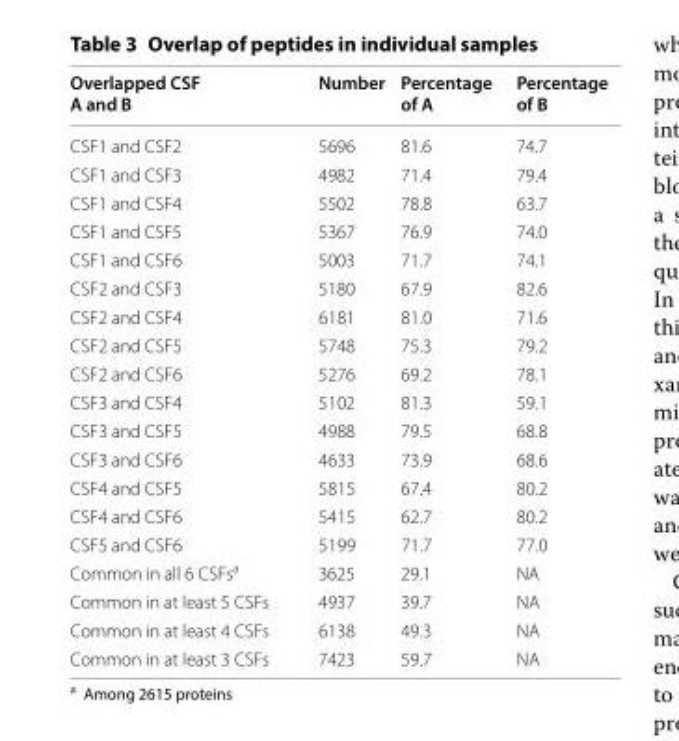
<table><thead><tr><td>Overlapped CSF A and B</td><td>Number</td><td>Percentage of A</td><td>Percentage of B</td></tr></thead><tbody><tr><td>CSF1 and CSF2</td><td>5696</td><td>81.6</td><td>74.7</td></tr><tr><td>CSF1 and CSF3</td><td>4982</td><td>71.4</td><td>79.4</td></tr><tr><td>CSF1 and CSF4</td><td>5502</td><td>78.8</td><td>63.7</td></tr><tr><td>CSF1 and CSF5</td><td>5367</td><td>76.9</td><td>74.0</td></tr><tr><td>CSF1 and CSF6</td><td>5003</td><td>71.7</td><td>74.1</td></tr><tr><td>CSF2 and CSF3</td><td>5180</td><td>67.9</td><td>82.6</td></tr><tr><td>CSF2 and CSF4</td><td>6181</td><td>81.0</td><td>71.6</td></tr><tr><td>CSF2 and CSF5</td><td>5748</td><td>75.3</td><td>79.2</td></tr><tr><td>CSF2 and CSF6</td><td>5276</td><td>69.2</td><td>78.1</td></tr><tr><td>CSF3 and CSF4</td><td>5102</td><td>81.3</td><td>59.1</td></tr><tr><td>CSF3 and CSF5</td><td>4988</td><td>79.5</td><td>68.8</td></tr><tr><td>CSF3 and CSF6</td><td>4633</td><td>73.9</td><td>68.6</td></tr><tr><td>CSF4 and CSF5</td><td>5815</td><td>67.4</td><td>80.2</td></tr><tr><td>CSF4 and CSF6</td><td>5415</td><td>62.7</td><td>80.2</td></tr><tr><td>CSF5 and CSF6</td><td>5199</td><td>71.7</td><td>77.0</td></tr><tr><td>Common in all 6 CSFs<sup>a</sup></td><td>3625</td><td>29.1</td><td>NA</td></tr><tr><td>Common in at least 5 CSFs</td><td>4937</td><td>39.7</td><td>NA</td></tr><tr><td>Common in at least 4 CSFs</td><td>6138</td><td>49.3</td><td>NA</td></tr><tr><td>Common in at least 3 CSFs</td><td>7423</td><td>59.7</td><td>NA</td></tr></tbody></table>